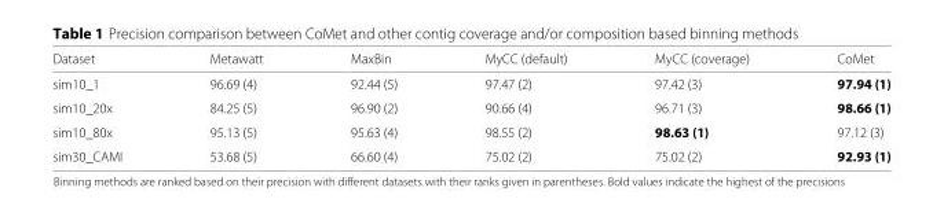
<table><thead><tr><td>Dataset</td><td>Metawatt</td><td>MaxBin</td><td>MyCC (default)</td><td>MyCC (coverage)</td><td>CoMet</td></tr></thead><tbody><tr><td>sim10_1</td><td>96.69 (4)</td><td>92.44 (5)</td><td>97.47 (2)</td><td>97.42 (3)</td><td>97.94 (1)</td></tr><tr><td>sim10_20x</td><td>84.25 (5)</td><td>96.90 (2)</td><td>90.66 (4)</td><td>96.71 (3)</td><td>98.66 (1)</td></tr><tr><td>sim10_80x</td><td>95.13 (5)</td><td>95.63 (4)</td><td>98.55 (2)</td><td>98.63 (1)</td><td>97.12 (3)</td></tr><tr><td>sim30_CAMI</td><td>53.68 (5)</td><td>66.60 (4)</td><td>75.02 (2)</td><td>75.02 (2)</td><td>92.93 (1)</td></tr></tbody></table>